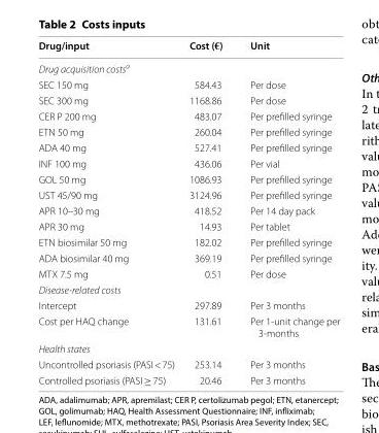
<table><thead><tr><td>Drug/input</td><td>Cost (€)</td><td>Unit</td></tr></thead><tbody><tr><td colspan="3">Drug acquisition costs<sup>a</sup></td></tr><tr><td>SEC 150 mg</td><td>584.43</td><td>Per dose</td></tr><tr><td>SEC 300 mg</td><td>1168.86</td><td>Per dose</td></tr><tr><td>CER P 200 mg</td><td>483.07</td><td>Per prefilled syringe</td></tr><tr><td>ETN 50 mg</td><td>260.04</td><td>Per prefilled syringe</td></tr><tr><td>ADA 40 mg</td><td>527.41</td><td>Per prefilled syringe</td></tr><tr><td>INF 100 mg</td><td>436.06</td><td>Per vial</td></tr><tr><td>GOL 50 mg</td><td>1086.93</td><td>Per prefilled syringe</td></tr><tr><td>UST 45/90 mg</td><td>3124.96</td><td>Per prefilled syringe</td></tr><tr><td>APR 10–30 mg</td><td>418.52</td><td>Per 14 day pack</td></tr><tr><td>APR 30 mg</td><td>14.93</td><td>Per tablet</td></tr><tr><td>ETN biosimilar 50 mg</td><td>182.02</td><td>Per prefilled syringe</td></tr><tr><td>ADA biosimilar 40 mg</td><td>369.19</td><td>Per prefilled syringe</td></tr><tr><td>MTX 7.5 mg</td><td>0.51</td><td>Per dose</td></tr><tr><td colspan="3">Disease-related costs</td></tr><tr><td>Intercept</td><td>297.89</td><td>Per 3 months</td></tr><tr><td>Cost per HAQ change</td><td>131.61</td><td>Per 1-unit change per 3-months</td></tr><tr><td colspan="3">Health states</td></tr><tr><td>Uncontrolled psoriasis (PASI &lt; 75)</td><td>253.14</td><td>Per 3 months</td></tr><tr><td>Controlled psoriasis (PASI ≥ 75)</td><td>20.46</td><td>Per 3 months</td></tr></tbody></table>